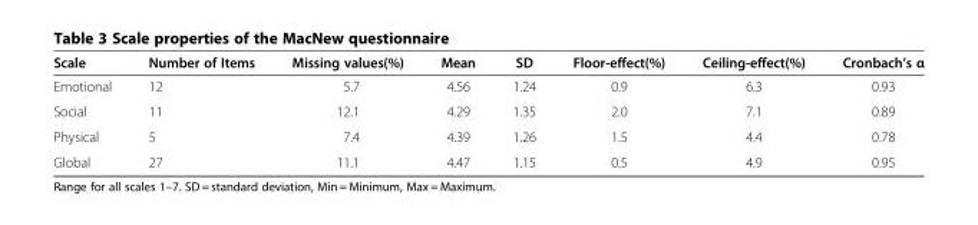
<table><thead><tr><td>Scale</td><td>Number of Items</td><td>Missing values(%)</td><td>Mean</td><td>SD</td><td>Floor-effect(%)</td><td>Ceiling-effect(%)</td><td>Cronbach’s α</td></tr></thead><tbody><tr><td>Emotional</td><td>12</td><td>5.7</td><td>4.56</td><td>1.24</td><td>0.9</td><td>6.3</td><td>0.93</td></tr><tr><td>Social</td><td>11</td><td>12.1</td><td>4.29</td><td>1.35</td><td>2.0</td><td>7.1</td><td>0.89</td></tr><tr><td>Physical</td><td>5</td><td>7.4</td><td>4.39</td><td>1.26</td><td>1.5</td><td>4.4</td><td>0.78</td></tr><tr><td>Global</td><td>27</td><td>11.1</td><td>4.47</td><td>1.15</td><td>0.5</td><td>4.9</td><td>0.95</td></tr></tbody></table>